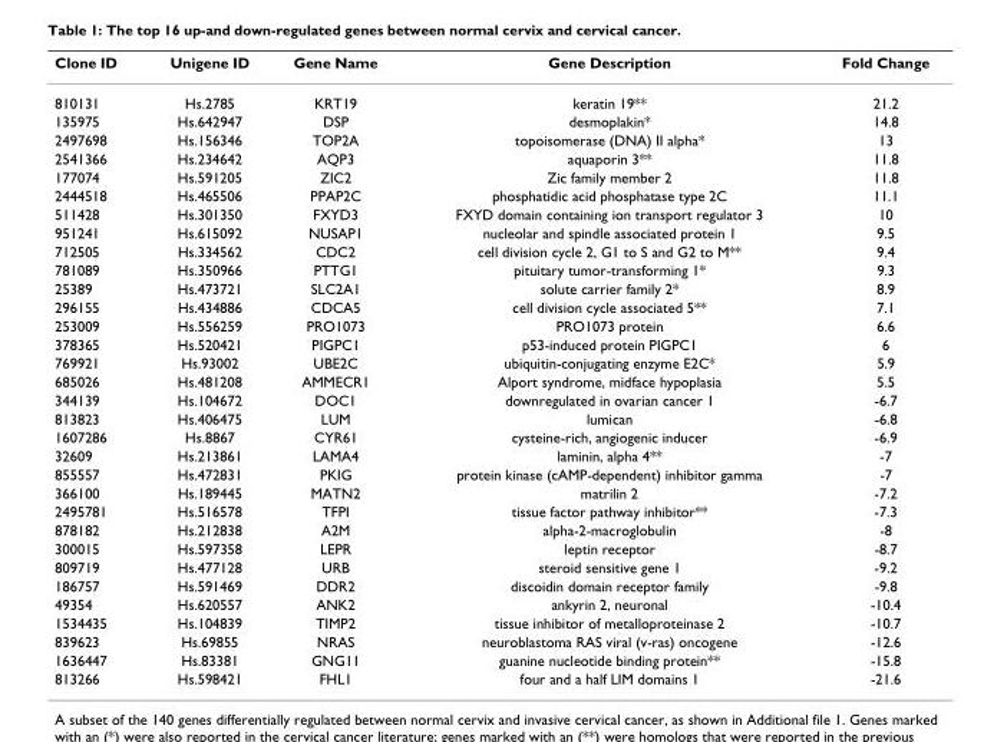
<table><thead><tr><td>Clone ID</td><td>Unigene ID</td><td>Gene Name</td><td>Gene Description</td><td>Fold Change</td></tr></thead><tbody><tr><td>810131</td><td>Hs.2785</td><td>KRT19</td><td>keratin 19**</td><td>21.2</td></tr><tr><td>135975</td><td>Hs.642947</td><td>DSP</td><td>desmoplakin*</td><td>14.8</td></tr><tr><td>2497698</td><td>Hs.156346</td><td>TOP2A</td><td>topoisomerase (DNA) II alpha*</td><td>13</td></tr><tr><td>2541366</td><td>Hs.234642</td><td>AQP3</td><td>aquaporin 3**</td><td>11.8</td></tr><tr><td>177074</td><td>Hs.591205</td><td>ZIC2</td><td>Zic family member 2</td><td>11.8</td></tr><tr><td>2444518</td><td>Hs.465506</td><td>PPAP2C</td><td>phosphatidic acid phosphatase type 2C</td><td>11.1</td></tr><tr><td>511428</td><td>Hs.301350</td><td>FXYD3</td><td>FXYD domain containing ion transport regulator 3</td><td>10</td></tr><tr><td>951241</td><td>Hs.615092</td><td>NUSAP1</td><td>nucleolar and spindle associated protein 1</td><td>9.5</td></tr><tr><td>712505</td><td>Hs.334562</td><td>CDC2</td><td>cell division cycle 2, G1 to S and G2 to M**</td><td>9.4</td></tr><tr><td>781089</td><td>Hs.350966</td><td>PTTG1</td><td>pituitary tumor-transforming 1*</td><td>9.3</td></tr><tr><td>25389</td><td>Hs.473721</td><td>SLC2A1</td><td>solute carrier family 2*</td><td>8.9</td></tr><tr><td>296155</td><td>Hs.434886</td><td>CDCA5</td><td>cell division cycle associated 5**</td><td>7.1</td></tr><tr><td>253009</td><td>Hs.556259</td><td>PRO1073</td><td>PRO1073 protein</td><td>6.6</td></tr><tr><td>378365</td><td>Hs.520421</td><td>PIGPC1</td><td>p53-induced protein PIGPC1</td><td>6</td></tr><tr><td>769921</td><td>Hs.93002</td><td>UBE2C</td><td>ubiquitin-conjugating enzyme E2C*</td><td>5.9</td></tr><tr><td>685026</td><td>Hs.481208</td><td>AMMECR1</td><td>Alport syndrome, midface hypoplasia</td><td>5.5</td></tr><tr><td>344139</td><td>Hs.104672</td><td>DOC1</td><td>downregulated in ovarian cancer 1</td><td>-6.7</td></tr><tr><td>813823</td><td>Hs.406475</td><td>LUM</td><td>lumican</td><td>-6.8</td></tr><tr><td>1607286</td><td>Hs.8867</td><td>CYR61</td><td>cysteine-rich, angiogenic inducer</td><td>-6.9</td></tr><tr><td>32609</td><td>Hs.213861</td><td>LAMA4</td><td>laminin, alpha 4**</td><td>-7</td></tr><tr><td>855557</td><td>Hs.472831</td><td>PKIG</td><td>protein kinase (cAMP-dependent) inhibitor gamma</td><td>-7</td></tr><tr><td>366100</td><td>Hs.189445</td><td>MATN2</td><td>matrilin 2</td><td>-7.2</td></tr><tr><td>2495781</td><td>Hs.516578</td><td>TFPI</td><td>tissue factor pathway inhibitor**</td><td>-7.3</td></tr><tr><td>878182</td><td>Hs.212838</td><td>A2M</td><td>alpha-2-macroglobulin</td><td>-8</td></tr><tr><td>300015</td><td>Hs.597358</td><td>LEPR</td><td>leptin receptor</td><td>-8.7</td></tr><tr><td>809719</td><td>Hs.477128</td><td>URB</td><td>steroid sensitive gene 1</td><td>-9.2</td></tr><tr><td>186757</td><td>Hs.591469</td><td>DDR2</td><td>discoidin domain receptor family</td><td>-9.8</td></tr><tr><td>49354</td><td>Hs.620557</td><td>ANK2</td><td>ankyrin 2, neuronal</td><td>-10.4</td></tr><tr><td>1534435</td><td>Hs.104839</td><td>TIMP2</td><td>tissue inhibitor of metalloproteinase 2</td><td>-10.7</td></tr><tr><td>839623</td><td>Hs.69855</td><td>NRAS</td><td>neuroblastoma RAS viral (v-ras) oncogene</td><td>-12.6</td></tr><tr><td>1636447</td><td>Hs.83381</td><td>GNG11</td><td>guanine nucleotide binding protein**</td><td>-15.8</td></tr><tr><td>813266</td><td>Hs.598421</td><td>FHL1</td><td>four and a half LIM domains 1</td><td>-21.6</td></tr></tbody></table>